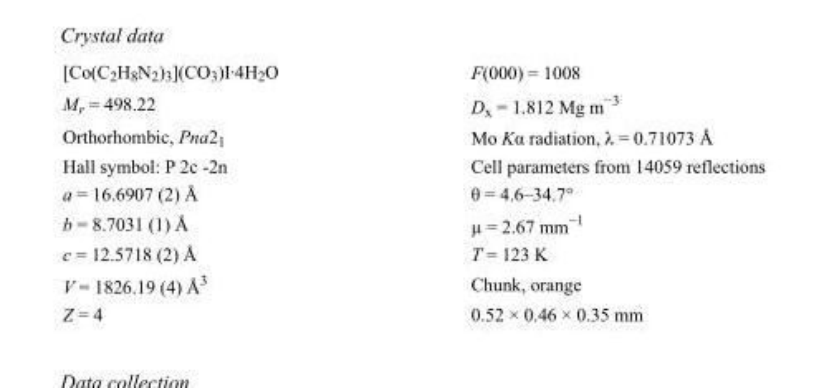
<table><tbody><tr><td>[Co(C<sub>2</sub>H<sub>8</sub>N<sub>2</sub>)<sub>3</sub>](CO<sub>3</sub>)I·4H<sub>2</sub>O</td><td>F(000) = 1008</td></tr><tr><td>M<sub>r</sub> = 498.22</td><td>D<sub>x</sub> = 1.812 Mg m<sup>−3</sup></td></tr><tr><td>Orthorhombic, Pna2<sub>1</sub></td><td>Mo Kα radiation, λ = 0.71073 Å</td></tr><tr><td>Hall symbol: P 2c -2n</td><td>Cell parameters from 14059 reflections</td></tr><tr><td>a = 16.6907 (2) Å</td><td>θ = 4.6–34.7°</td></tr><tr><td>b = 8.7031 (1) Å</td><td>µ = 2.67 mm<sup>−1</sup></td></tr><tr><td>c = 12.5718 (2) Å</td><td>T = 123 K</td></tr><tr><td>V = 1826.19 (4) Å<sup>3</sup></td><td>Chunk, orange</td></tr><tr><td>Z = 4</td><td>0.52 × 0.46 × 0.35 mm</td></tr></tbody></table>